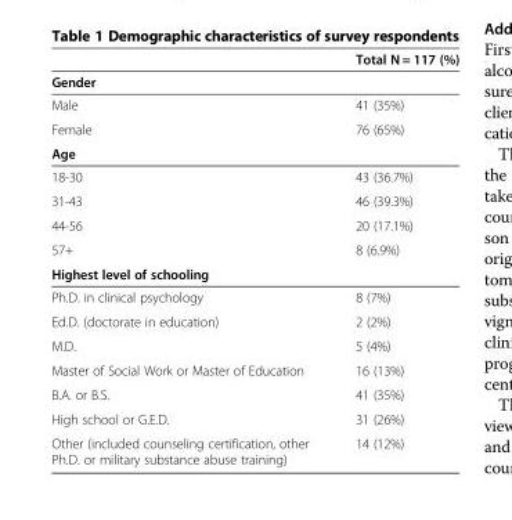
<table><thead><tr><td></td><td>Total N = 117 (%)</td></tr></thead><tbody><tr><td colspan="2">Gender</td></tr><tr><td>Male</td><td>41 (35%)</td></tr><tr><td>Female</td><td>76 (65%)</td></tr><tr><td colspan="2">Age</td></tr><tr><td>18-30</td><td>43 (36.7%)</td></tr><tr><td>31-43</td><td>46 (39.3%)</td></tr><tr><td>44-56</td><td>20 (17.1%)</td></tr><tr><td>57+</td><td>8 (6.9%)</td></tr><tr><td colspan="2">Highest level of schooling</td></tr><tr><td>Ph.D. in clinical psychology</td><td>8 (7%)</td></tr><tr><td>Ed.D. (doctorate in education)</td><td>2 (2%)</td></tr><tr><td>M.D.</td><td>5 (4%)</td></tr><tr><td>Master of Social Work or Master of Education</td><td>16 (13%)</td></tr><tr><td>B.A. or B.S.</td><td>41 (35%)</td></tr><tr><td>High school or G.E.D.</td><td>31 (26%)</td></tr><tr><td>Other (included counseling certification, other Ph.D. or military substance abuse training)</td><td>14 (12%)</td></tr></tbody></table>